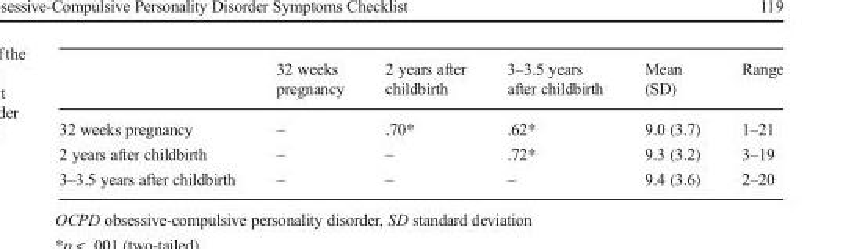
<table><thead><tr><td></td><td>32 weeks pregnancy</td><td>2 years after childbirth</td><td>3–3.5 years after childbirth</td><td>Mean (SD)</td><td>Range</td></tr></thead><tbody><tr><td>32 weeks pregnancy</td><td>–</td><td>.70*</td><td>.62*</td><td>9.0 (3.7)</td><td>1–21</td></tr><tr><td>2 years after childbirth</td><td>–</td><td>–</td><td>.72*</td><td>9.3 (3.2)</td><td>3–19</td></tr><tr><td>3–3.5 years after childbirth</td><td>–</td><td>–</td><td>–</td><td>9.4 (3.6)</td><td>2–20</td></tr></tbody></table>